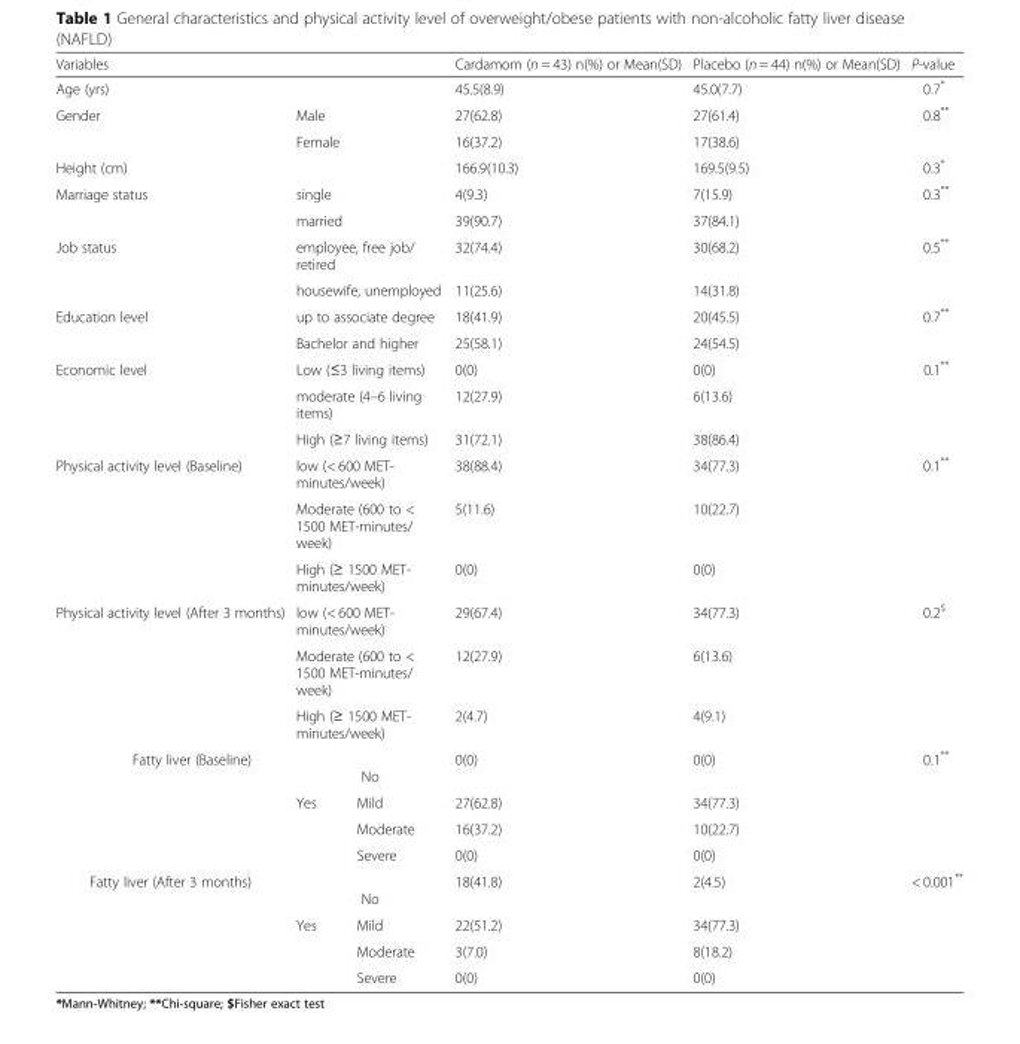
<table><thead><tr><td colspan="3">Variables</td><td>Cardamom (n = 43) n(%) or Mean(SD)</td><td>Placebo (n = 44) n(%) or Mean(SD)</td><td>P-value</td></tr></thead><tbody><tr><td colspan="3">Age (yrs)</td><td>45.5(8.9)</td><td>45.0(7.7)</td><td>0.7*</td></tr><tr><td rowspan="2">Gender</td><td colspan="2">Male</td><td>27(62.8)</td><td>27(61.4)</td><td rowspan="2">0.8**</td></tr><tr><td colspan="2">Female</td><td>16(37.2)</td><td>17(38.6)</td></tr><tr><td colspan="3">Height (cm)</td><td>166.9(10.3)</td><td>169.5(9.5)</td><td>0.3*</td></tr><tr><td rowspan="2">Marriage status</td><td colspan="2">single</td><td>4(9.3)</td><td>7(15.9)</td><td rowspan="2">0.3**</td></tr><tr><td colspan="2">married</td><td>39(90.7)</td><td>37(84.1)</td></tr><tr><td rowspan="2">Job status</td><td colspan="2">employee, free job/ retired</td><td>32(74.4)</td><td>30(68.2)</td><td rowspan="2">0.5**</td></tr><tr><td colspan="2">housewife, unemployed</td><td>11(25.6)</td><td>14(31.8)</td></tr><tr><td rowspan="2">Education level</td><td colspan="2">up to associate degree</td><td>18(41.9)</td><td>20(45.5)</td><td rowspan="2">0.7**</td></tr><tr><td colspan="2">Bachelor and higher</td><td>25(58.1)</td><td>24(54.5)</td></tr><tr><td rowspan="3">Economic level</td><td colspan="2">Low (≤3 living items)</td><td>0(0)</td><td>0(0)</td><td rowspan="3">0.1**</td></tr><tr><td colspan="2">moderate (4–6 living items)</td><td>12(27.9)</td><td>6(13.6)</td></tr><tr><td colspan="2">High (≥7 living items)</td><td>31(72.1)</td><td>38(86.4)</td></tr><tr><td rowspan="3">Physical activity level (Baseline)</td><td colspan="2">low (&lt; 600 MET- minutes/week)</td><td>38(88.4)</td><td>34(77.3)</td><td rowspan="3">0.1**</td></tr><tr><td colspan="2">Moderate (600 to &lt; 1500 MET-minutes/ week)</td><td>5(11.6)</td><td>10(22.7)</td></tr><tr><td colspan="2">High (≥ 1500 MET- minutes/week)</td><td>0(0)</td><td>0(0)</td></tr><tr><td rowspan="3">Physical activity level (After 3 months)</td><td colspan="2">low (&lt; 600 MET- minutes/week)</td><td>29(67.4)</td><td>34(77.3)</td><td rowspan="3">0.2<sup>$</sup></td></tr><tr><td colspan="2">Moderate (600 to &lt; 1500 MET-minutes/ week)</td><td>12(27.9)</td><td>6(13.6)</td></tr><tr><td colspan="2">High (≥ 1500 MET- minutes/week)</td><td>2(4.7)</td><td>4(9.1)</td></tr><tr><td rowspan="4">Fatty liver (Baseline)</td><td colspan="2">No</td><td>0(0)</td><td>0(0)</td><td rowspan="4">0.1**</td></tr><tr><td rowspan="3">Yes</td><td>Mild</td><td>27(62.8)</td><td>34(77.3)</td></tr><tr><td>Moderate</td><td>16(37.2)</td><td>10(22.7)</td></tr><tr><td>Severe</td><td>0(0)</td><td>0(0)</td></tr><tr><td rowspan="4">Fatty liver (After 3 months)</td><td colspan="2">No</td><td>18(41.8)</td><td>2(4.5)</td><td rowspan="4">&lt; 0.001**</td></tr><tr><td rowspan="3">Yes</td><td>Mild</td><td>22(51.2)</td><td>34(77.3)</td></tr><tr><td>Moderate</td><td>3(7.0)</td><td>8(18.2)</td></tr><tr><td>Severe</td><td>0(0)</td><td>0(0)</td></tr></tbody></table>